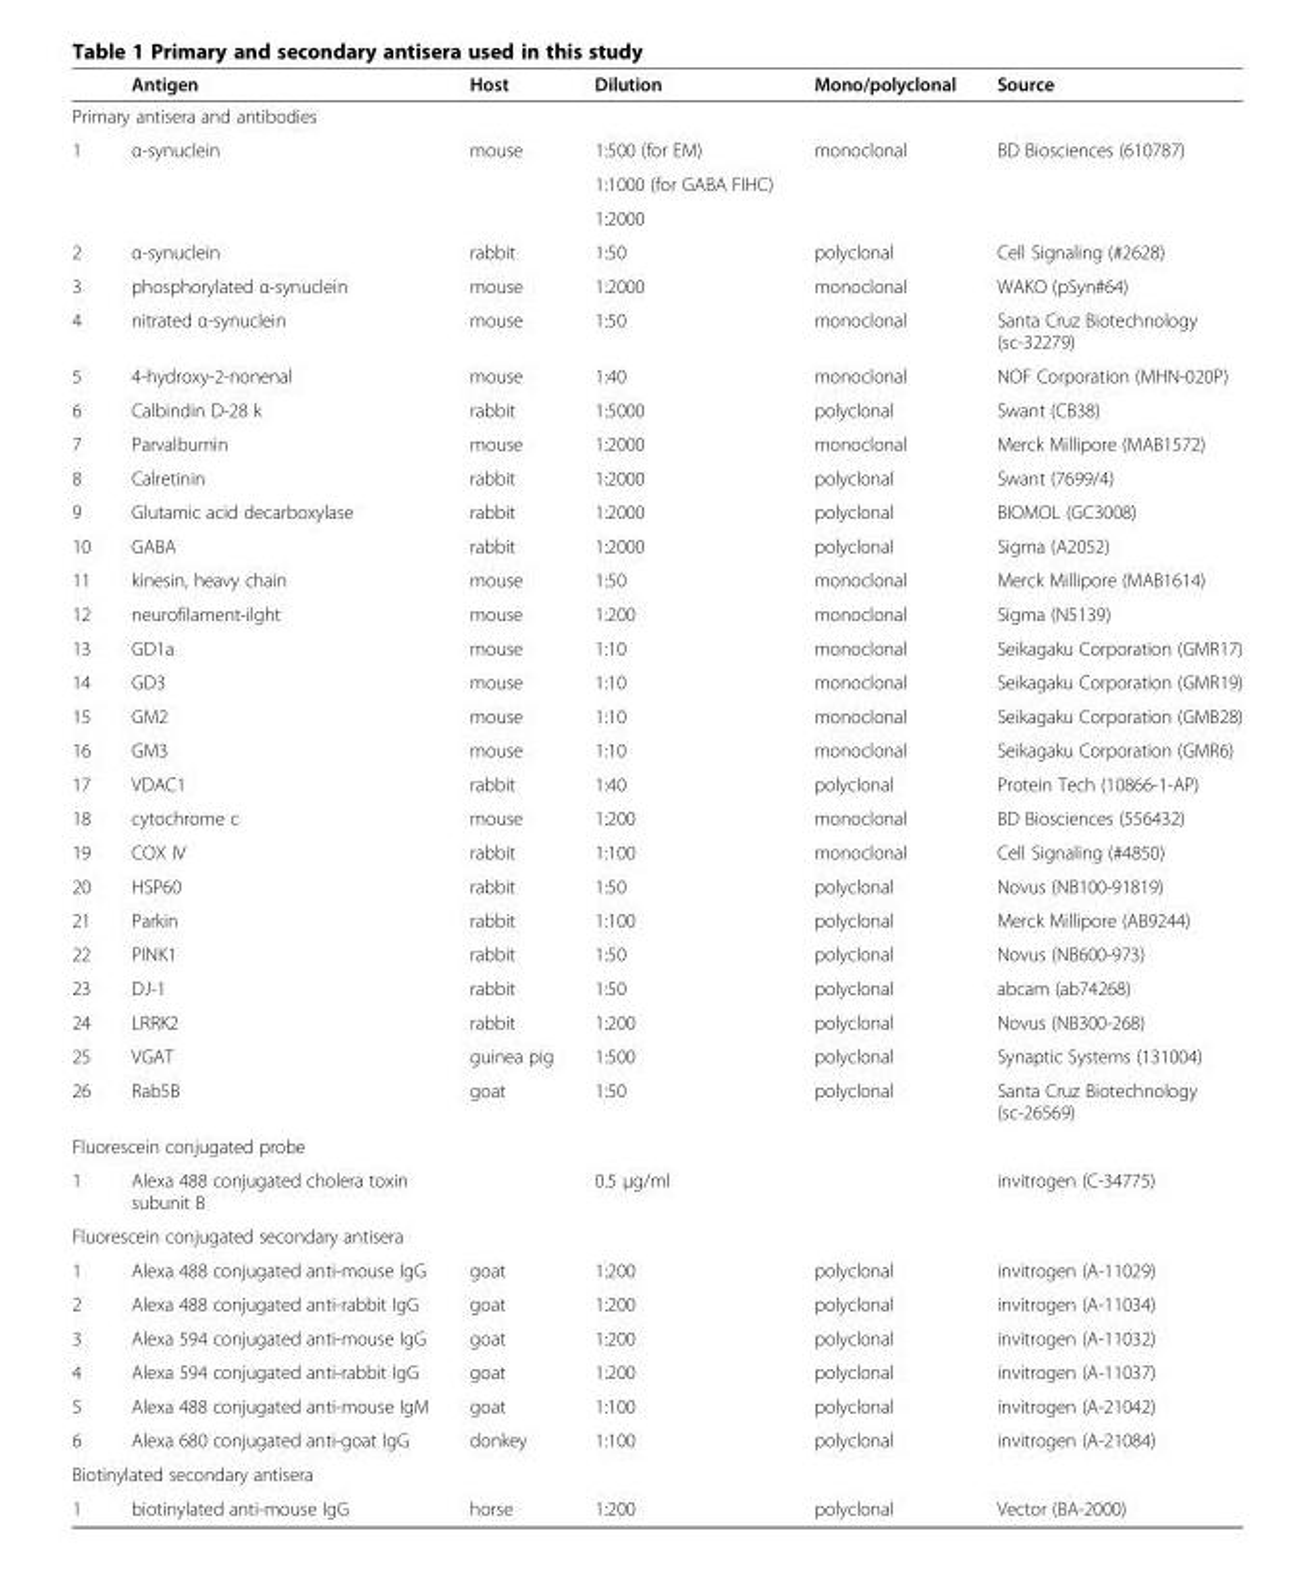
<table><thead><tr><td></td><td>Antigen</td><td>Host</td><td>Dilution</td><td>Mono/polyclonal</td><td>Source</td></tr></thead><tbody><tr><td colspan="6">Primary antisera and antibodies</td></tr><tr><td rowspan="3">1</td><td>α-synuclein</td><td>mouse</td><td>1:500 (for EM)</td><td>monoclonal</td><td>BD Biosciences (610787)</td></tr><tr><td></td><td></td><td>1:1000 (for GABA FIHC)</td><td></td><td></td></tr><tr><td></td><td></td><td>1:2000</td><td></td><td></td></tr><tr><td>2</td><td>α-synuclein</td><td>rabbit</td><td>1:50</td><td>polyclonal</td><td>Cell Signaling (#2628)</td></tr><tr><td>3</td><td>phosphorylated α-synuclein</td><td>mouse</td><td>1:2000</td><td>monoclonal</td><td>WAKO (pSyn#64)</td></tr><tr><td>4</td><td>nitrated α-synuclein</td><td>mouse</td><td>1:50</td><td>monoclonal</td><td>Santa Cruz Biotechnology (sc-32279)</td></tr><tr><td>5</td><td>4-hydroxy-2-nonenal</td><td>mouse</td><td>1:40</td><td>monoclonal</td><td>NOF Corporation (MHN-020P)</td></tr><tr><td>6</td><td>Calbindin D-28 k</td><td>rabbit</td><td>1:5000</td><td>polyclonal</td><td>Swant (CB38)</td></tr><tr><td>7</td><td>Parvalbumin</td><td>mouse</td><td>1:2000</td><td>monoclonal</td><td>Merck Millipore (MAB1572)</td></tr><tr><td>8</td><td>Calretinin</td><td>rabbit</td><td>1:2000</td><td>polyclonal</td><td>Swant (7699/4)</td></tr><tr><td>9</td><td>Glutamic acid decarboxylase</td><td>rabbit</td><td>1:2000</td><td>polyclonal</td><td>BIOMOL (GC3008)</td></tr><tr><td>10</td><td>GABA</td><td>rabbit</td><td>1:2000</td><td>polyclonal</td><td>Sigma (A2052)</td></tr><tr><td>11</td><td>kinesin, heavy chain</td><td>mouse</td><td>1:50</td><td>monoclonal</td><td>Merck Millipore (MAB1614)</td></tr><tr><td>12</td><td>neurofilament-ilght</td><td>mouse</td><td>1:200</td><td>monoclonal</td><td>Sigma (N5139)</td></tr><tr><td>13</td><td>GD1a</td><td>mouse</td><td>1:10</td><td>monoclonal</td><td>Seikagaku Corporation (GMR17)</td></tr><tr><td>14</td><td>GD3</td><td>mouse</td><td>1:10</td><td>monoclonal</td><td>Seikagaku Corporation (GMR19)</td></tr><tr><td>15</td><td>GM2</td><td>mouse</td><td>1:10</td><td>monoclonal</td><td>Seikagaku Corporation (GMB28)</td></tr><tr><td>16</td><td>GM3</td><td>mouse</td><td>1:10</td><td>monoclonal</td><td>Seikagaku Corporation (GMR6)</td></tr><tr><td>17</td><td>VDAC1</td><td>rabbit</td><td>1:40</td><td>polyclonal</td><td>Protein Tech (10866-1-AP)</td></tr><tr><td>18</td><td>cytochrome c</td><td>mouse</td><td>1:200</td><td>monoclonal</td><td>BD Biosciences (556432)</td></tr><tr><td>19</td><td>COX IV</td><td>rabbit</td><td>1:100</td><td>monoclonal</td><td>Cell Signaling (#4850)</td></tr><tr><td>20</td><td>HSP60</td><td>rabbit</td><td>1:50</td><td>polyclonal</td><td>Novus (NB100-91819)</td></tr><tr><td>21</td><td>Parkin</td><td>rabbit</td><td>1:100</td><td>polyclonal</td><td>Merck Millipore (AB9244)</td></tr><tr><td>22</td><td>PINK1</td><td>rabbit</td><td>1:50</td><td>polyclonal</td><td>Novus (NB600-973)</td></tr><tr><td>23</td><td>DJ-1</td><td>rabbit</td><td>1:50</td><td>polyclonal</td><td>abcam (ab74268)</td></tr><tr><td>24</td><td>LRRK2</td><td>rabbit</td><td>1:200</td><td>polyclonal</td><td>Novus (NB300-268)</td></tr><tr><td>25</td><td>VGAT</td><td>guinea pig</td><td>1:500</td><td>polyclonal</td><td>Synaptic Systems (131004)</td></tr><tr><td>26</td><td>Rab5B</td><td>goat</td><td>1:50</td><td>polyclonal</td><td>Santa Cruz Biotechnology (sc-26569)</td></tr><tr><td colspan="6">Fluorescein conjugated probe</td></tr><tr><td>1</td><td>Alexa 488 conjugated cholera toxin subunit B</td><td></td><td>0.5 μg/ml</td><td></td><td>invitrogen (C-34775)</td></tr><tr><td colspan="6">Fluorescein conjugated secondary antisera</td></tr><tr><td>1</td><td>Alexa 488 conjugated anti-mouse IgG</td><td>goat</td><td>1:200</td><td>polyclonal</td><td>invitrogen (A-11029)</td></tr><tr><td>2</td><td>Alexa 488 conjugated anti-rabbit IgG</td><td>goat</td><td>1:200</td><td>polyclonal</td><td>invitrogen (A-11034)</td></tr><tr><td>3</td><td>Alexa 594 conjugated anti-mouse IgG</td><td>goat</td><td>1:200</td><td>polyclonal</td><td>invitrogen (A-11032)</td></tr><tr><td>4</td><td>Alexa 594 conjugated anti-rabbit IgG</td><td>goat</td><td>1:200</td><td>polyclonal</td><td>invitrogen (A-11037)</td></tr><tr><td>5</td><td>Alexa 488 conjugated anti-mouse IgM</td><td>goat</td><td>1:100</td><td>polyclonal</td><td>invitrogen (A-21042)</td></tr><tr><td>6</td><td>Alexa 680 conjugated anti-goat IgG</td><td>donkey</td><td>1:100</td><td>polyclonal</td><td>invitrogen (A-21084)</td></tr><tr><td colspan="6">Biotinylated secondary antisera</td></tr><tr><td>1</td><td>biotinylated anti-mouse IgG</td><td>horse</td><td>1:200</td><td>polyclonal</td><td>Vector (BA-2000)</td></tr></tbody></table>